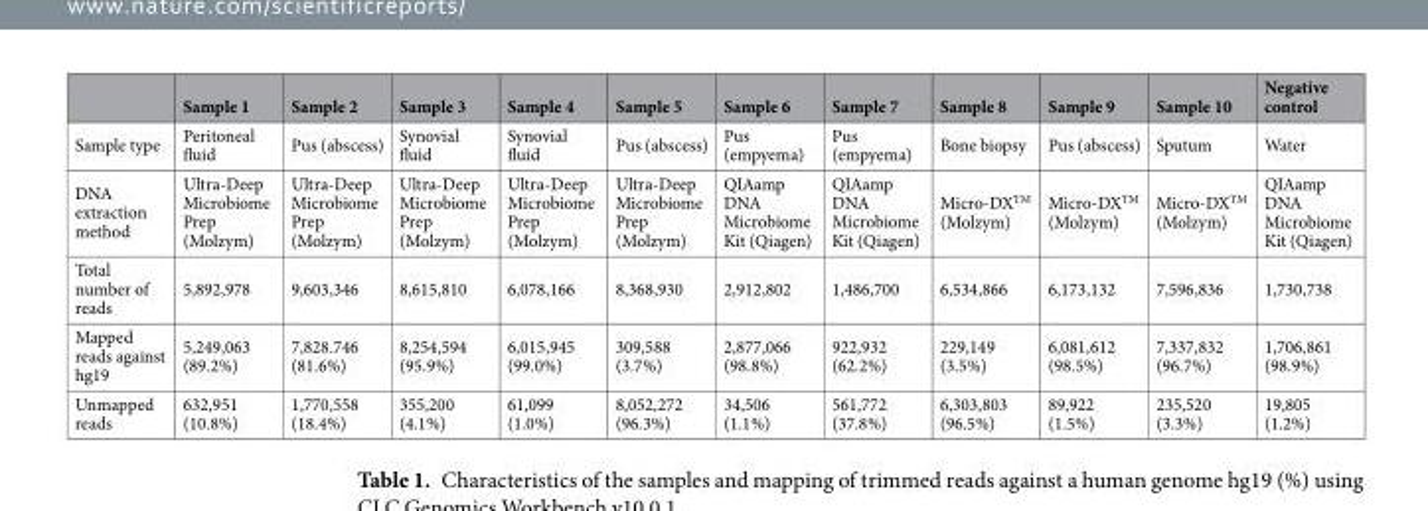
<table><thead><tr><td></td><td>Sample 1</td><td>Sample 2</td><td>Sample 3</td><td>Sample 4</td><td>Sample 5</td><td>Sample 6</td><td>Sample 7</td><td>Sample 8</td><td>Sample 9</td><td>Sample 10</td><td>Negative control</td></tr></thead><tbody><tr><td>Sample type</td><td>Peritoneal fluid</td><td>Pus (abscess)</td><td>Synovial fluid</td><td>Synovial fluid</td><td>Pus (abscess)</td><td>Pus (empyema)</td><td>Pus (empyema)</td><td>Bone biopsy</td><td>Pus (abscess)</td><td>Sputum</td><td>Water</td></tr><tr><td>DNA extraction method</td><td>Ultra-Deep Microbiome Prep (Molzym)</td><td>Ultra-Deep Microbiome Prep (Molzym)</td><td>Ultra-Deep Microbiome Prep (Molzym)</td><td>Ultra-Deep Microbiome Prep (Molzym)</td><td>Ultra-Deep Microbiome Prep (Molzym)</td><td>QIAamp DNA Microbiome Kit (Qiagen)</td><td>QIAamp DNA Microbiome Kit (Qiagen)</td><td>Micro-DX<sup>TM</sup> (Molzym)</td><td>Micro-DX<sup>TM</sup> (Molzym)</td><td>Micro-DX<sup>TM</sup> (Molzym)</td><td>QIAamp DNA Microbiome Kit (Qiagen)</td></tr><tr><td>Total number of reads</td><td>5,892,978</td><td>9,603,346</td><td>8,615,810</td><td>6,078,166</td><td>8,368,930</td><td>2,912,802</td><td>1,486,700</td><td>6,534,866</td><td>6,173,132</td><td>7,596,836</td><td>1,730,738</td></tr><tr><td>Mapped reads against hg19</td><td>5,249,063 (89.2%)</td><td>7,828.746 (81.6%)</td><td>8,254,594 (95.9%)</td><td>6,015,945 (99.0%)</td><td>309,588 (3.7%)</td><td>2,877,066 (98.8%)</td><td>922,932 (62.2%)</td><td>229,149 (3.5%)</td><td>6,081,612 (98.5%)</td><td>7,337,832 (96.7%)</td><td>1,706,861 (98.9%)</td></tr><tr><td>Unmapped reads</td><td>632,951 (10.8%)</td><td>1,770,558 (18.4%)</td><td>355,200 (4.1%)</td><td>61,099 (1.0%)</td><td>8,052,272 (96.3%)</td><td>34,506 (1.1%)</td><td>561,772 (37.8%)</td><td>6,303,803 (96.5%)</td><td>89,922 (1.5%)</td><td>235,520 (3.3%)</td><td>19,805 (1.2%)</td></tr></tbody></table>